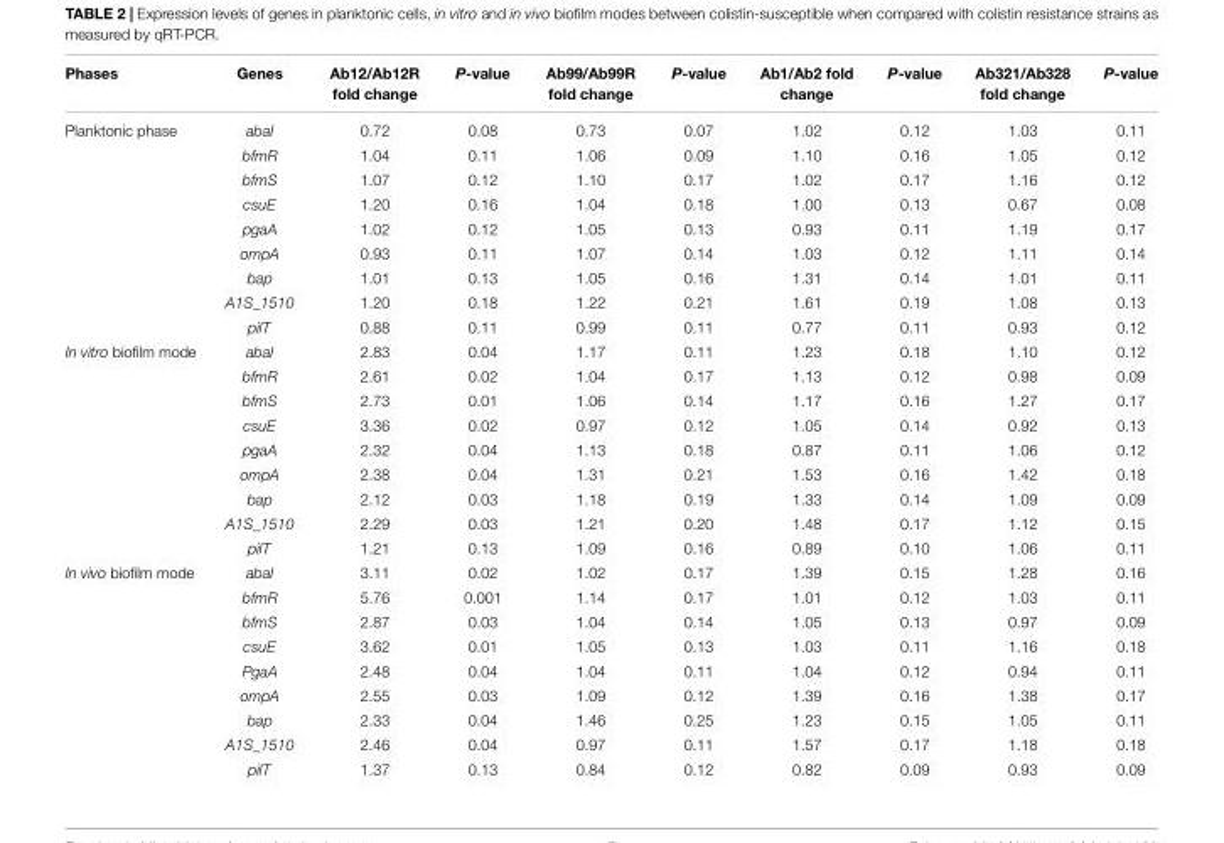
<table><thead><tr><td>Phases</td><td>Genes</td><td>Ab12/Ab12R fold change</td><td>P-value</td><td>Ab99/Ab99R fold change</td><td>P-value</td><td>Ab1/Ab2 fold change</td><td>P-value</td><td>Ab321/Ab328 fold change</td><td>P-value</td></tr></thead><tbody><tr><td rowspan="9">Planktonic phase</td><td>abaI</td><td>0.72</td><td>0.08</td><td>0.73</td><td>0.07</td><td>1.02</td><td>0.12</td><td>1.03</td><td>0.11</td></tr><tr><td>bfmR</td><td>1.04</td><td>0.11</td><td>1.06</td><td>0.09</td><td>1.10</td><td>0.16</td><td>1.05</td><td>0.12</td></tr><tr><td>bfmS</td><td>1.07</td><td>0.12</td><td>1.10</td><td>0.17</td><td>1.02</td><td>0.17</td><td>1.16</td><td>0.12</td></tr><tr><td>csuE</td><td>1.20</td><td>0.16</td><td>1.04</td><td>0.18</td><td>1.00</td><td>0.13</td><td>0.67</td><td>0.08</td></tr><tr><td>pgaA</td><td>1.02</td><td>0.12</td><td>1.05</td><td>0.13</td><td>0.93</td><td>0.11</td><td>1.19</td><td>0.17</td></tr><tr><td>ompA</td><td>0.93</td><td>0.11</td><td>1.07</td><td>0.14</td><td>1.03</td><td>0.12</td><td>1.11</td><td>0.14</td></tr><tr><td>bap</td><td>1.01</td><td>0.13</td><td>1.05</td><td>0.16</td><td>1.31</td><td>0.14</td><td>1.01</td><td>0.11</td></tr><tr><td>A1S_1510</td><td>1.20</td><td>0.18</td><td>1.22</td><td>0.21</td><td>1.61</td><td>0.19</td><td>1.08</td><td>0.13</td></tr><tr><td>pilT</td><td>0.88</td><td>0.11</td><td>0.99</td><td>0.11</td><td>0.77</td><td>0.11</td><td>0.93</td><td>0.12</td></tr><tr><td rowspan="9">In vitro biofilm mode</td><td>abaI</td><td>2.83</td><td>0.04</td><td>1.17</td><td>0.11</td><td>1.23</td><td>0.18</td><td>1.10</td><td>0.12</td></tr><tr><td>bfmR</td><td>2.61</td><td>0.02</td><td>1.04</td><td>0.17</td><td>1.13</td><td>0.12</td><td>0.98</td><td>0.09</td></tr><tr><td>bfmS</td><td>2.73</td><td>0.01</td><td>1.06</td><td>0.14</td><td>1.17</td><td>0.16</td><td>1.27</td><td>0.17</td></tr><tr><td>csuE</td><td>3.36</td><td>0.02</td><td>0.97</td><td>0.12</td><td>1.05</td><td>0.14</td><td>0.92</td><td>0.13</td></tr><tr><td>pgaA</td><td>2.32</td><td>0.04</td><td>1.13</td><td>0.18</td><td>0.87</td><td>0.11</td><td>1.06</td><td>0.12</td></tr><tr><td>ompA</td><td>2.38</td><td>0.04</td><td>1.31</td><td>0.21</td><td>1.53</td><td>0.16</td><td>1.42</td><td>0.18</td></tr><tr><td>bap</td><td>2.12</td><td>0.03</td><td>1.18</td><td>0.19</td><td>1.33</td><td>0.14</td><td>1.09</td><td>0.09</td></tr><tr><td>A1S_1510</td><td>2.29</td><td>0.03</td><td>1.21</td><td>0.20</td><td>1.48</td><td>0.17</td><td>1.12</td><td>0.15</td></tr><tr><td>pilT</td><td>1.21</td><td>0.13</td><td>1.09</td><td>0.16</td><td>0.89</td><td>0.10</td><td>1.06</td><td>0.11</td></tr><tr><td rowspan="9">In vivo biofilm mode</td><td>abaI</td><td>3.11</td><td>0.02</td><td>1.02</td><td>0.17</td><td>1.39</td><td>0.15</td><td>1.28</td><td>0.16</td></tr><tr><td>bfmR</td><td>5.76</td><td>0.001</td><td>1.14</td><td>0.17</td><td>1.01</td><td>0.12</td><td>1.03</td><td>0.11</td></tr><tr><td>bfmS</td><td>2.87</td><td>0.03</td><td>1.04</td><td>0.14</td><td>1.05</td><td>0.13</td><td>0.97</td><td>0.09</td></tr><tr><td>csuE</td><td>3.62</td><td>0.01</td><td>1.05</td><td>0.13</td><td>1.03</td><td>0.11</td><td>1.16</td><td>0.18</td></tr><tr><td>PgaA</td><td>2.48</td><td>0.04</td><td>1.04</td><td>0.11</td><td>1.04</td><td>0.12</td><td>0.94</td><td>0.11</td></tr><tr><td>ompA</td><td>2.55</td><td>0.03</td><td>1.09</td><td>0.12</td><td>1.39</td><td>0.16</td><td>1.38</td><td>0.17</td></tr><tr><td>bap</td><td>2.33</td><td>0.04</td><td>1.46</td><td>0.25</td><td>1.23</td><td>0.15</td><td>1.05</td><td>0.11</td></tr><tr><td>A1S_1510</td><td>2.46</td><td>0.04</td><td>0.97</td><td>0.11</td><td>1.57</td><td>0.17</td><td>1.18</td><td>0.18</td></tr><tr><td>pilT</td><td>1.37</td><td>0.13</td><td>0.84</td><td>0.12</td><td>0.82</td><td>0.09</td><td>0.93</td><td>0.09</td></tr></tbody></table>